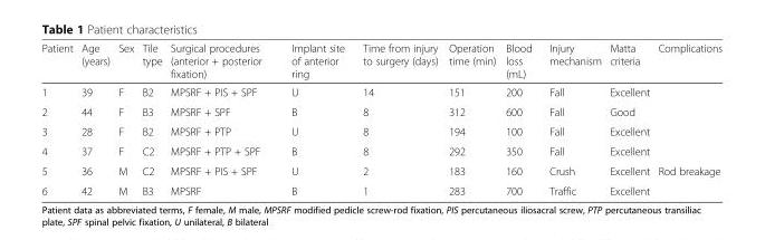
<table><thead><tr><td>Patient</td><td>Age (years)</td><td>Sex</td><td>Tile type</td><td>Surgical procedures (anterior + posterior fixation)</td><td>Implant site of anterior ring</td><td>Time from injury to surgery (days)</td><td>Operation time (min)</td><td>Blood loss (mL)</td><td>Injury mechanism</td><td>Matta criteria</td><td>Complications</td></tr></thead><tbody><tr><td>1</td><td>39</td><td>F</td><td>B2</td><td>MPSRF + PIS + SPF</td><td>U</td><td>14</td><td>151</td><td>200</td><td>Fall</td><td>Excellent</td><td></td></tr><tr><td>2</td><td>44</td><td>F</td><td>B3</td><td>MPSRF + SPF</td><td>B</td><td>8</td><td>312</td><td>600</td><td>Fall</td><td>Good</td><td></td></tr><tr><td>3</td><td>28</td><td>F</td><td>B2</td><td>MPSRF + PTP</td><td>U</td><td>8</td><td>194</td><td>100</td><td>Fall</td><td>Excellent</td><td></td></tr><tr><td>4</td><td>37</td><td>F</td><td>C2</td><td>MPSRF + PTP + SPF</td><td>B</td><td>8</td><td>292</td><td>350</td><td>Fall</td><td>Excellent</td><td></td></tr><tr><td>5</td><td>36</td><td>M</td><td>C2</td><td>MPSRF + PIS + SPF</td><td>U</td><td>2</td><td>183</td><td>160</td><td>Crush</td><td>Excellent</td><td>Rod breakage</td></tr><tr><td>6</td><td>42</td><td>M</td><td>B3</td><td>MPSRF</td><td>B</td><td>1</td><td>283</td><td>700</td><td>Traffic</td><td>Excellent</td><td></td></tr></tbody></table>